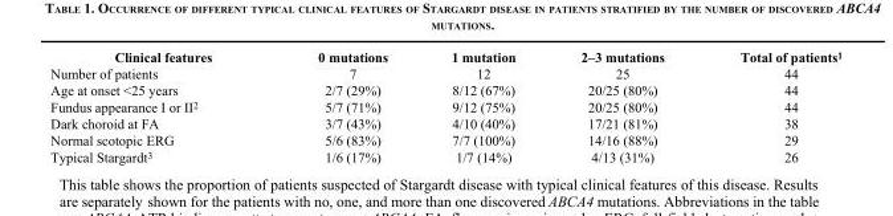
<table><thead><tr><td>Clinical features</td><td>0 mutations</td><td>1 mutation</td><td>2–3 mutations</td><td>Total of patients<sup>1</sup></td></tr></thead><tbody><tr><td>Number of patients</td><td>7</td><td>12</td><td>25</td><td>44</td></tr><tr><td>Age at onset &lt;25 years</td><td>2/7 (29%)</td><td>8/12 (67%)</td><td>20/25 (80%)</td><td>44</td></tr><tr><td>Fundus appearance I or II<sup>2</sup></td><td>5/7 (71%)</td><td>9/12 (75%)</td><td>20/25 (80%)</td><td>44</td></tr><tr><td>Dark choroid at FA</td><td>3/7 (43%)</td><td>4/10 (40%)</td><td>17/21 (81%)</td><td>38</td></tr><tr><td>Normal scotopic ERG</td><td>5/6 (83%)</td><td>7/7 (100%)</td><td>14/16 (88%)</td><td>29</td></tr><tr><td>Typical Stargardt<sup>3</sup></td><td>1/6 (17%)</td><td>1/7 (14%)</td><td>4/13 (31%)</td><td>26</td></tr></tbody></table>